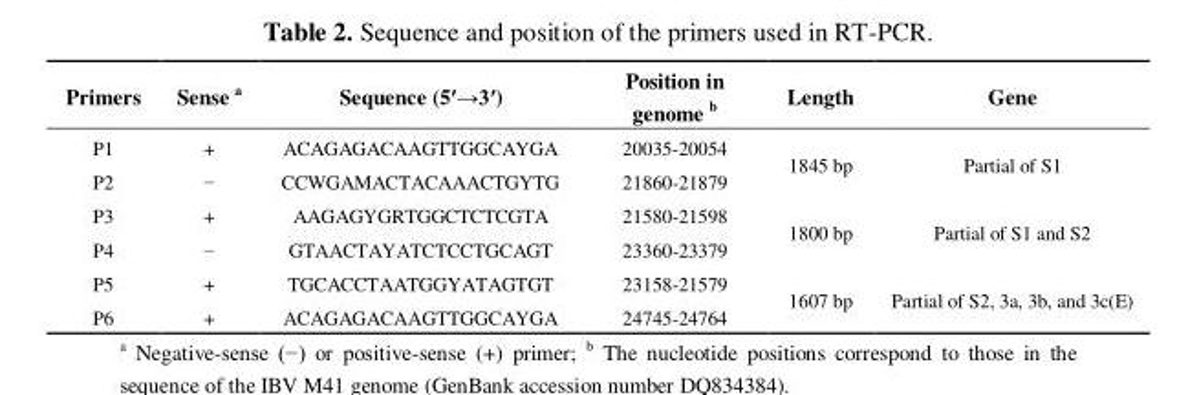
<table><thead><tr><td>Primers</td><td>Sense <sup>a</sup></td><td>Sequence (5′→3′)</td><td>Position in genome <sup>b</sup></td><td>Length</td><td>Gene</td></tr></thead><tbody><tr><td>P1</td><td>+</td><td>ACAGAGACAAGTTGGCAYGA</td><td>20035-20054</td><td rowspan="2">1845 bp</td><td rowspan="2">Partial of S1</td></tr><tr><td>P2</td><td>−</td><td>CCWGAMACTACAAACTGYTG</td><td>21860-21879</td></tr><tr><td>P3</td><td>+</td><td>AAGAGYGRTGGCTCTCGTA</td><td>21580-21598</td><td rowspan="2">1800 bp</td><td rowspan="2">Partial of S1 and S2</td></tr><tr><td>P4</td><td>−</td><td>GTAACTAYATCTCCTGCAGT</td><td>23360-23379</td></tr><tr><td>P5</td><td>+</td><td>TGCACCTAATGGYATAGTGT</td><td>23158-21579</td><td rowspan="2">1607 bp</td><td rowspan="2">Partial of S2, 3a, 3b, and 3c(E)</td></tr><tr><td>P6</td><td>+</td><td>ACAGAGACAAGTTGGCAYGA</td><td>24745-24764</td></tr></tbody></table>